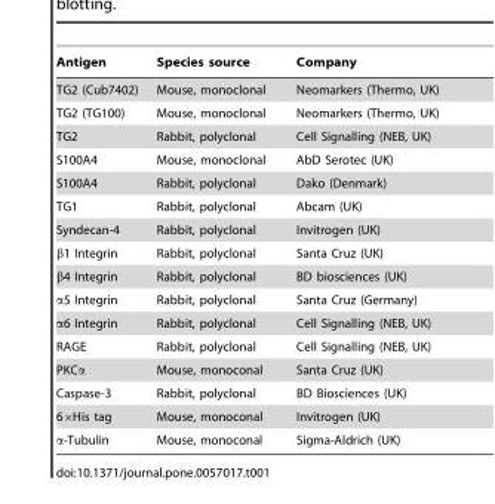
<table><thead><tr><td>Antigen</td><td>Species source</td><td>Company</td></tr></thead><tbody><tr><td>TG2 (Cub7402)</td><td>Mouse, monoclonal</td><td>Neomarkers (Thermo, UK)</td></tr><tr><td>TG2 (TG100)</td><td>Mouse, monoclonal</td><td>Neomarkers (Thermo, UK)</td></tr><tr><td>TG2</td><td>Rabbit, polyclonal</td><td>Cell Signalling (NEB, UK)</td></tr><tr><td>S100A4</td><td>Mouse, monoclonal</td><td>AbD Serotec (UK)</td></tr><tr><td>S100A4</td><td>Rabbit, polyclonal</td><td>Dako (Denmark)</td></tr><tr><td>TG1</td><td>Rabbit, polyclonal</td><td>Abcam (UK)</td></tr><tr><td>Syndecan-4</td><td>Rabbit, polyclonal</td><td>Invitrogen (UK)</td></tr><tr><td>β1 Integrin</td><td>Rabbit, polyclonal</td><td>Santa Cruz (UK)</td></tr><tr><td>β4 Integrin</td><td>Rabbit, polyclonal</td><td>BD biosciences (UK)</td></tr><tr><td>α5 Integrin</td><td>Rabbit, polyclonal</td><td>Santa Cruz (Germany)</td></tr><tr><td>α6 Integrin</td><td>Rabbit, polyclonal</td><td>Cell Signalling (NEB, UK)</td></tr><tr><td>RAGE</td><td>Rabbit, polyclonal</td><td>Cell Signalling (NEB, UK)</td></tr><tr><td>PKCα</td><td>Mouse, monoconal</td><td>Santa Cruz (UK)</td></tr><tr><td>Caspase-3</td><td>Rabbit, polyclonal</td><td>BD Biosciences (UK)</td></tr><tr><td>6×His tag</td><td>Mouse, monoconal</td><td>Invitrogen (UK)</td></tr><tr><td>α-Tubulin</td><td>Mouse, monoconal</td><td>Sigma-Aldrich (UK)</td></tr></tbody></table>